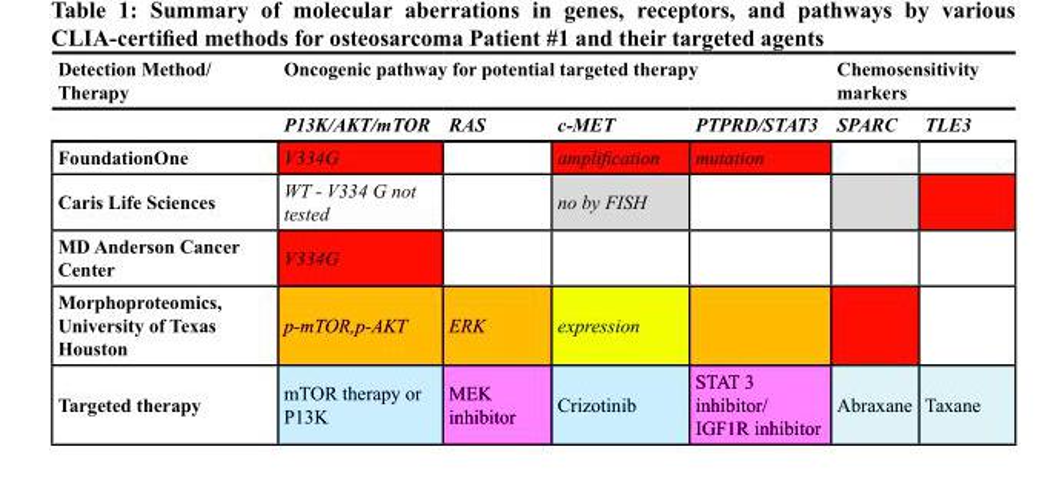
<table><thead><tr><td rowspan="2">Detection Method/ Therapy</td><td colspan="4">Oncogenic pathway for potential targeted therapy</td><td colspan="2">Chemosensitivity markers</td></tr><tr><td>P13K/AKT/mTOR</td><td>RAS</td><td>c-MET</td><td>PTPRD/STAT3</td><td>SPARC</td><td>TLE3</td></tr></thead><tbody><tr><td>FoundationOne</td><td>V334G</td><td></td><td>amplification</td><td>mutation</td><td></td><td></td></tr><tr><td>Caris Life Sciences</td><td>WT - V334 G not tested</td><td></td><td>no by FISH</td><td></td><td></td><td></td></tr><tr><td>MD Anderson Cancer Center</td><td>V334G</td><td></td><td></td><td></td><td></td><td></td></tr><tr><td>Morphoproteomics, University of Texas Houston</td><td>p-mTOR,p-AKT</td><td>ERK</td><td>expression</td><td></td><td></td><td></td></tr><tr><td>Targeted therapy</td><td>mTOR therapy or P13K</td><td>MEK inhibitor</td><td>Crizotinib</td><td>STAT 3 inhibitor/ IGF1R inhibitor</td><td>Abraxane</td><td>Taxane</td></tr></tbody></table>